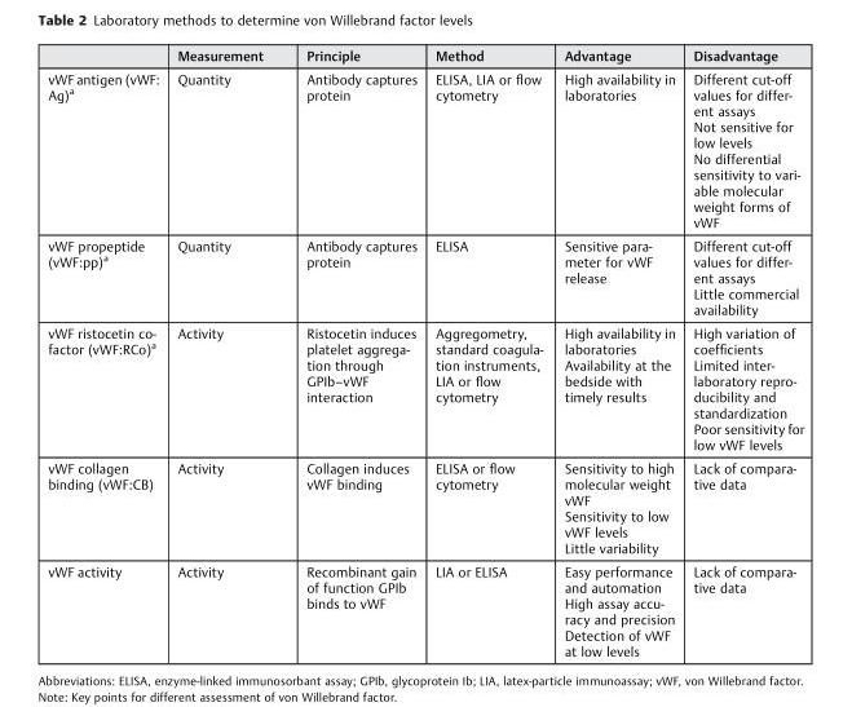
<table><thead><tr><td></td><td>Measurement</td><td>Principle</td><td>Method</td><td>Advantage</td><td>Disadvantage</td></tr></thead><tbody><tr><td>vWF antigen (vWF: Ag)a</td><td>Quantity</td><td>Antibody captures protein</td><td>ELISA, LIA or flow cytometry</td><td>High availability in laboratories</td><td>Different cut-off values for differ- ent assays Not sensitive for low levels No differential sensitivity to vari- able molecular weight forms of vWF</td></tr><tr><td>vWF propeptide (vWF:pp)a</td><td>Quantity</td><td>Antibody captures protein</td><td>ELISA</td><td>Sensitive para- meter for vWF release</td><td>Different cut-off values for differ- ent assays Little commercial availability</td></tr><tr><td>vWF ristocetin co- factor (vWF:RCo)a</td><td>Activity</td><td>Ristocetin induces platelet aggrega- tion through GPIb–vWF interaction</td><td>Aggregometry, standard coagula- tion instruments, LIA or flow cytometry</td><td>High availability in laboratories Availability at the bedside with timely results</td><td>High variation of coefficients Limited inter- laboratory repro- ducibility and standardization Poor sensitivity for low vWF levels</td></tr><tr><td>vWF collagen binding (vWF:CB)</td><td>Activity</td><td>Collagen induces vWF binding</td><td>ELISA or flow cytometry</td><td>Sensitivity to high molecular weight vWF Sensitivity to low vWF levels Little variability</td><td>Lack of compara- tive data</td></tr><tr><td>vWF activity</td><td>Activity</td><td>Recombinant gain of function GPIb binds to vWF</td><td>LIA or ELISA</td><td>Easy performance and automation High assay accu- racy and precision Detection of vWF at low levels</td><td>Lack of compara- tive data</td></tr></tbody></table>